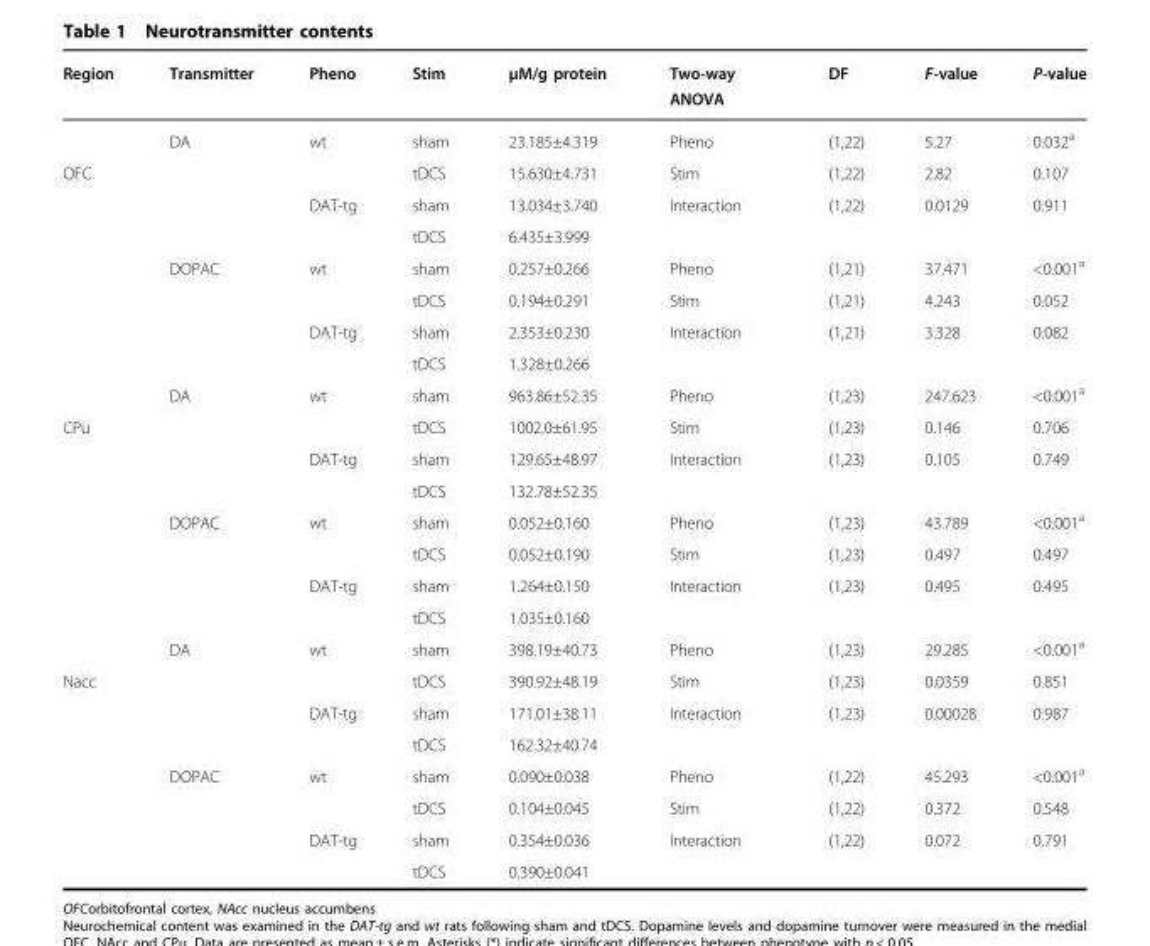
<table><thead><tr><td>Region</td><td>Transmitter</td><td>Pheno</td><td>Stim</td><td>µM/g protein</td><td>Two-way ANOVA</td><td>DF</td><td>F-value</td><td>P-value</td></tr></thead><tbody><tr><td></td><td>DA</td><td>wt</td><td>sham</td><td>23.185±4.319</td><td>Pheno</td><td>(1,22)</td><td>5.27</td><td>0.032<sup>a</sup></td></tr><tr><td rowspan="8">OFC</td><td></td><td></td><td>tDCS</td><td>15.630±4.731</td><td>Stim</td><td>(1,22)</td><td>2.82</td><td>0.107</td></tr><tr><td></td><td>DAT-tg</td><td>sham</td><td>13.034±3.740</td><td>Interaction</td><td>(1,22)</td><td>0.0129</td><td>0.911</td></tr><tr><td></td><td></td><td>tDCS</td><td>6.435±3.999</td><td></td><td></td><td></td><td></td></tr><tr><td>DOPAC</td><td>wt</td><td>sham</td><td>0.257±0.266</td><td>Pheno</td><td>(1,21)</td><td>37.471</td><td>&lt;0.001<sup>a</sup></td></tr><tr><td></td><td></td><td>tDCS</td><td>0.194±0.291</td><td>Stim</td><td>(1,21)</td><td>4.243</td><td>0.052</td></tr><tr><td></td><td>DAT-tg</td><td>sham</td><td>2.353±0.230</td><td>Interaction</td><td>(1,21)</td><td>3.328</td><td>0.082</td></tr><tr><td></td><td></td><td>tDCS</td><td>1.328±0.266</td><td></td><td></td><td></td><td></td></tr><tr><td>DA</td><td>wt</td><td>sham</td><td>963.86±52.35</td><td>Pheno</td><td>(1,23)</td><td>247.623</td><td>&lt;0.001<sup>a</sup></td></tr><tr><td rowspan="8">CPu</td><td></td><td></td><td>tDCS</td><td>1002.0±61.95</td><td>Stim</td><td>(1,23)</td><td>0.146</td><td>0.706</td></tr><tr><td></td><td>DAT-tg</td><td>sham</td><td>129.65±48.97</td><td>Interaction</td><td>(1,23)</td><td>0.105</td><td>0.749</td></tr><tr><td></td><td></td><td>tDCS</td><td>132.78±52.35</td><td></td><td></td><td></td><td></td></tr><tr><td>DOPAC</td><td>wt</td><td>sham</td><td>0.052±0.160</td><td>Pheno</td><td>(1,23)</td><td>43.789</td><td>&lt;0.001<sup>a</sup></td></tr><tr><td></td><td></td><td>tDCS</td><td>0.052±0.190</td><td>Stim</td><td>(1,23)</td><td>0.497</td><td>0.497</td></tr><tr><td></td><td>DAT-tg</td><td>sham</td><td>1.264±0.150</td><td>Interaction</td><td>(1,23)</td><td>0.495</td><td>0.495</td></tr><tr><td></td><td></td><td>tDCS</td><td>1.035±0.160</td><td></td><td></td><td></td><td></td></tr><tr><td>DA</td><td>wt</td><td>sham</td><td>398.19±40.73</td><td>Pheno</td><td>(1,23)</td><td>29.285</td><td>&lt;0.001<sup>a</sup></td></tr><tr><td rowspan="7">Nacc</td><td></td><td></td><td>tDCS</td><td>390.92±48.19</td><td>Stim</td><td>(1,23)</td><td>0.0359</td><td>0.851</td></tr><tr><td></td><td>DAT-tg</td><td>sham</td><td>171.01±38.11</td><td>Interaction</td><td>(1,23)</td><td>0.00028</td><td>0.987</td></tr><tr><td></td><td></td><td>tDCS</td><td>162.32±40.74</td><td></td><td></td><td></td><td></td></tr><tr><td>DOPAC</td><td>wt</td><td>sham</td><td>0.090±0.038</td><td>Pheno</td><td>(1,22)</td><td>45.293</td><td>&lt;0.001<sup>a</sup></td></tr><tr><td></td><td></td><td>tDCS</td><td>0.104±0.045</td><td>Stim</td><td>(1,22)</td><td>0.372</td><td>0.548</td></tr><tr><td></td><td>DAT-tg</td><td>sham</td><td>0.354±0.036</td><td>Interaction</td><td>(1,22)</td><td>0.072</td><td>0.791</td></tr><tr><td></td><td></td><td>tDCS</td><td>0.390±0.041</td><td></td><td></td><td></td><td></td></tr></tbody></table>